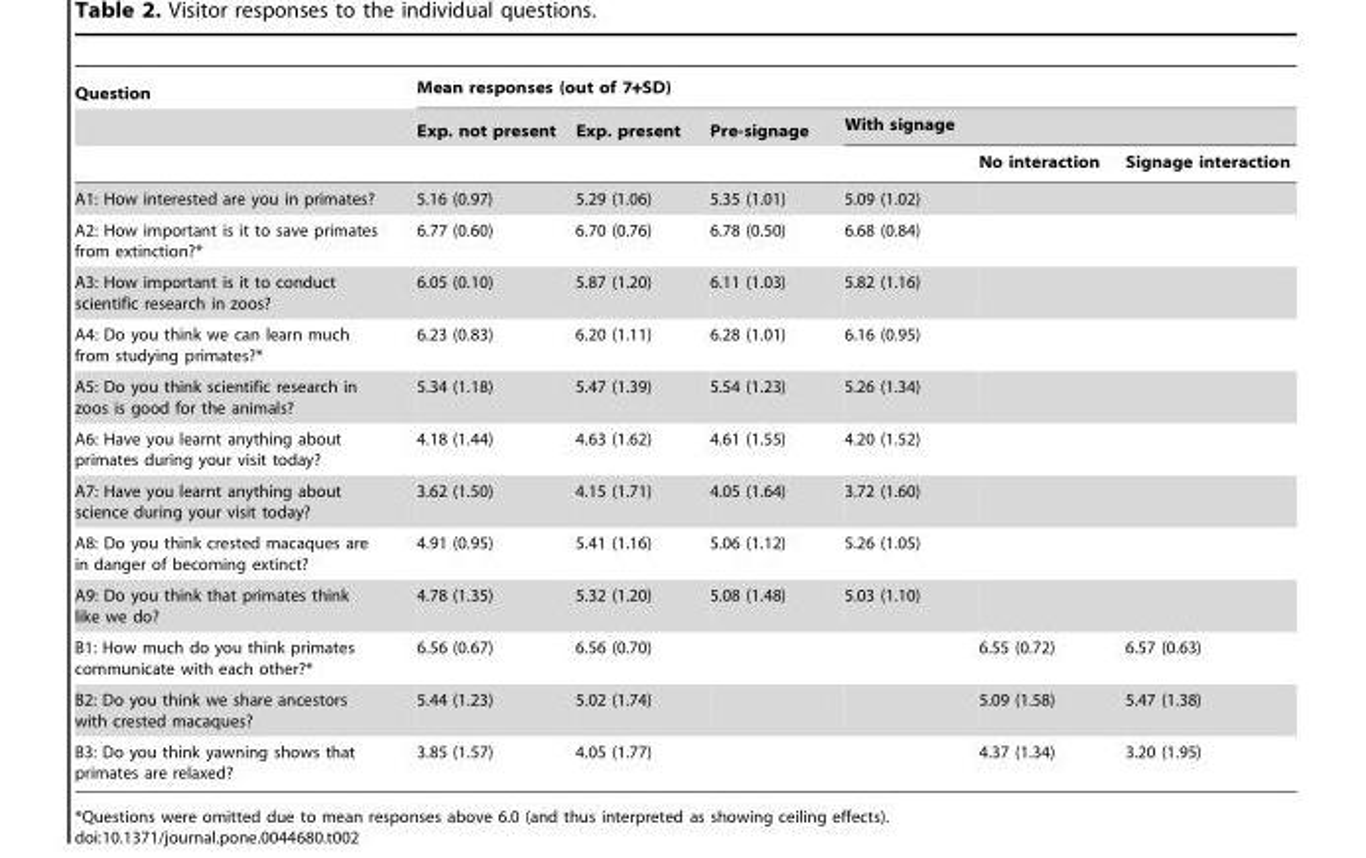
<table><thead><tr><td rowspan="3">Question</td><td colspan="6">Mean responses (out of 7+SD)</td></tr><tr><td rowspan="2">Exp. not present</td><td rowspan="2">Exp. present</td><td rowspan="2">Pre-signage</td><td colspan="3">With signage</td></tr><tr><td></td><td>No interaction</td><td>Signage interaction</td></tr></thead><tbody><tr><td>A1: How interested are you in primates?</td><td>5.16 (0.97)</td><td>5.29 (1.06)</td><td>5.35 (1.01)</td><td>5.09 (1.02)</td><td></td><td></td></tr><tr><td>A2: How important is it to save primates from extinction?*</td><td>6.77 (0.60)</td><td>6.70 (0.76)</td><td>6.78 (0.50)</td><td>6.68 (0.84)</td><td></td><td></td></tr><tr><td>A3: How important is it to conduct scientific research in zoos?</td><td>6.05 (0.10)</td><td>5.87 (1.20)</td><td>6.11 (1.03)</td><td>5.82 (1.16)</td><td></td><td></td></tr><tr><td>A4: Do you think we can learn much from studying primates?*</td><td>6.23 (0.83)</td><td>6.20 (1.11)</td><td>6.28 (1.01)</td><td>6.16 (0.95)</td><td></td><td></td></tr><tr><td>A5: Do you think scientific research in zoos is good for the animals?</td><td>5.34 (1.18)</td><td>5.47 (1.39)</td><td>5.54 (1.23)</td><td>5.26 (1.34)</td><td></td><td></td></tr><tr><td>A6: Have you learnt anything about primates during your visit today?</td><td>4.18 (1.44)</td><td>4.63 (1.62)</td><td>4.61 (1.55)</td><td>4.20 (1.52)</td><td></td><td></td></tr><tr><td>A7: Have you learnt anything about science during your visit today?</td><td>3.62 (1.50)</td><td>4.15 (1.71)</td><td>4.05 (1.64)</td><td>3.72 (1.60)</td><td></td><td></td></tr><tr><td>A8: Do you think crested macaques are in danger of becoming extinct?</td><td>4.91 (0.95)</td><td>5.41 (1.16)</td><td>5.06 (1.12)</td><td>5.26 (1.05)</td><td></td><td></td></tr><tr><td>A9: Do you think that primates think like we do?</td><td>4.78 (1.35)</td><td>5.32 (1.20)</td><td>5.08 (1.48)</td><td>5.03 (1.10)</td><td></td><td></td></tr><tr><td>B1: How much do you think primates communicate with each other?*</td><td>6.56 (0.67)</td><td>6.56 (0.70)</td><td></td><td></td><td>6.55 (0.72)</td><td>6.57 (0.63)</td></tr><tr><td>B2: Do you think we share ancestors with crested macaques?</td><td>5.44 (1.23)</td><td>5.02 (1.74)</td><td></td><td></td><td>5.09 (1.58)</td><td>5.47 (1.38)</td></tr><tr><td>B3: Do you think yawning shows that primates are relaxed?</td><td>3.85 (1.57)</td><td>4.05 (1.77)</td><td></td><td></td><td>4.37 (1.34)</td><td>3.20 (1.95)</td></tr></tbody></table>